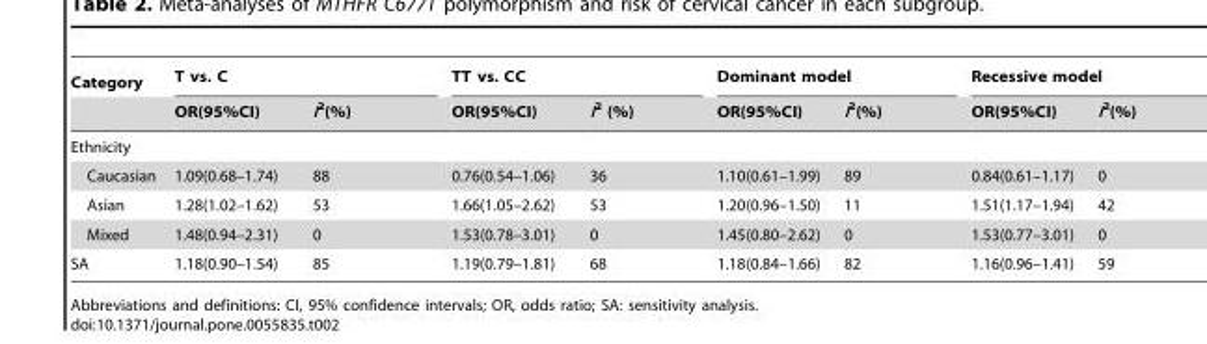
<table><thead><tr><td rowspan="2">Category</td><td colspan="2">T vs. C</td><td colspan="2">TT vs. CC</td><td colspan="2">Dominant model</td><td colspan="2">Recessive model</td></tr><tr><td>OR(95%CI)</td><td>I<sup>2</sup>(%)</td><td>OR(95%CI)</td><td>I<sup>2</sup> (%)</td><td>OR(95%CI)</td><td>I<sup>2</sup>(%)</td><td>OR(95%CI)</td><td>I<sup>2</sup>(%)</td></tr></thead><tbody><tr><td colspan="9">Ethnicity</td></tr><tr><td>Caucasian</td><td>1.09(0.68–1.74)</td><td>88</td><td>0.76(0.54–1.06)</td><td>36</td><td>1.10(0.61–1.99)</td><td>89</td><td>0.84(0.61–1.17)</td><td>0</td></tr><tr><td>Asian</td><td>1.28(1.02–1.62)</td><td>53</td><td>1.66(1.05–2.62)</td><td>53</td><td>1.20(0.96–1.50)</td><td>11</td><td>1.51(1.17–1.94)</td><td>42</td></tr><tr><td>Mixed</td><td>1.48(0.94–2.31)</td><td>0</td><td>1.53(0.78–3.01)</td><td>0</td><td>1.45(0.80–2.62)</td><td>0</td><td>1.53(0.77–3.01)</td><td>0</td></tr><tr><td>SA</td><td>1.18(0.90–1.54)</td><td>85</td><td>1.19(0.79–1.81)</td><td>68</td><td>1.18(0.84–1.66)</td><td>82</td><td>1.16(0.96–1.41)</td><td>59</td></tr></tbody></table>